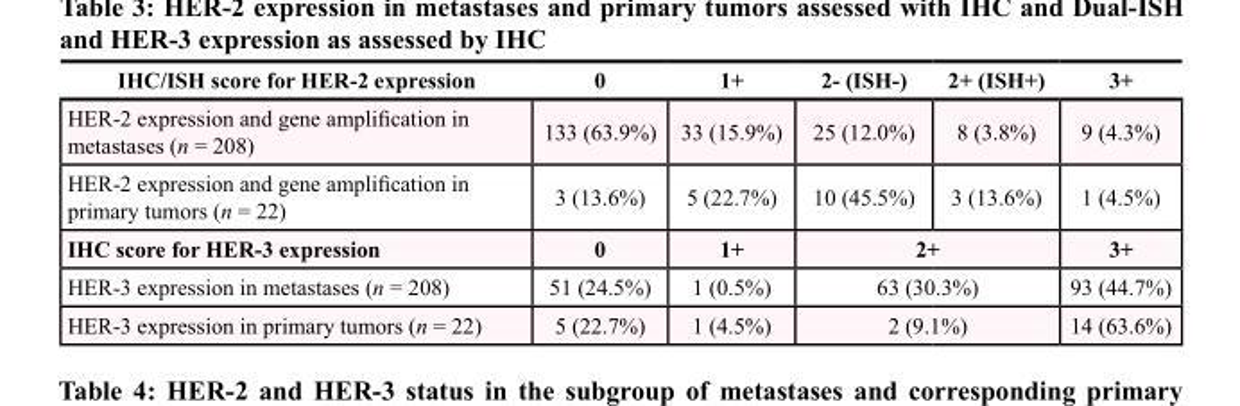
<table><thead><tr><td>IHC/ISH score for HER-2 expression</td><td>0</td><td>1+</td><td>2- (ISH-)</td><td>2+ (ISH+)</td><td>3+</td></tr></thead><tbody><tr><td>HER-2 expression and gene amplification in metastases (n = 208)</td><td>133 (63.9%)</td><td>33 (15.9%)</td><td>25 (12.0%)</td><td>8 (3.8%)</td><td>9 (4.3%)</td></tr><tr><td>HER-2 expression and gene amplification in primary tumors (n = 22)</td><td>3 (13.6%)</td><td>5 (22.7%)</td><td>10 (45.5%)</td><td>3 (13.6%)</td><td>1 (4.5%)</td></tr><tr><td>IHC score for HER-3 expression</td><td>0</td><td>1+</td><td colspan="2">2+</td><td>3+</td></tr><tr><td>HER3 expression in metastases (n = 208)</td><td>51 (24.5%)</td><td>1 (0.5%)</td><td colspan="2">63 (30.3%)</td><td>93 (44.7%)</td></tr><tr><td>HER3 expression in primary tumors (n = 22)</td><td>5 (22.7%)</td><td>1 (4.5%)</td><td colspan="2">2 (9.1%)</td><td>14 (63.6%)</td></tr></tbody></table>